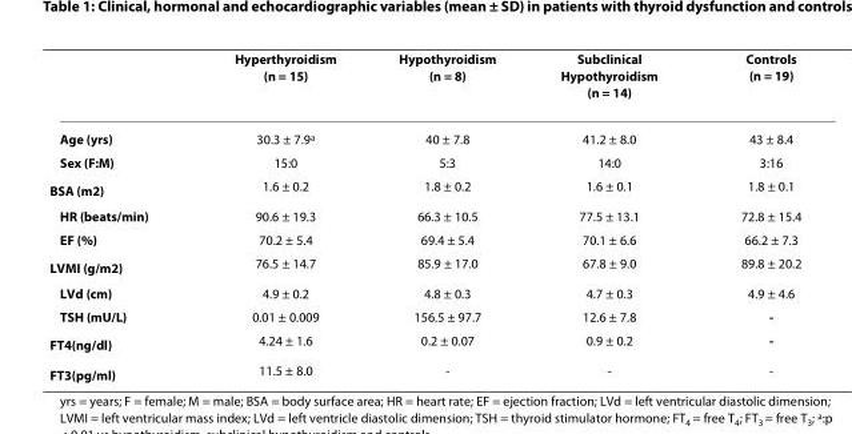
<table><thead><tr><td></td><td>Hyperthyroidism (n = 15)</td><td>Hypothyroidism (n = 8)</td><td>Subclinical Hypothyroidism (n = 14)</td><td>Controls (n = 19)</td></tr></thead><tbody><tr><td>Age (yrs)</td><td>30.3 ± 7.9<sup>a</sup></td><td>40 ± 7.8</td><td>41.2 ± 8.0</td><td>43 ± 8.4</td></tr><tr><td>Sex (F:M)</td><td>15:0</td><td>5:3</td><td>14:0</td><td>3:16</td></tr><tr><td>BSA (m<sup>2</sup>)</td><td>1.6 ± 0.2</td><td>1.8 ± 0.2</td><td>1.6 ± 0.1</td><td>1.8 ± 0.1</td></tr><tr><td>HR (beats/min)</td><td>90.6 ± 19.3</td><td>66.3 ± 10.5</td><td>77.5 ± 13.1</td><td>72.8 ± 15.4</td></tr><tr><td>EF (%)</td><td>70.2 ± 5.4</td><td>69.4 ± 5.4</td><td>70.1 ± 6.6</td><td>66.2 ± 7.3</td></tr><tr><td>LVMI (g/m<sup>2</sup>)</td><td>76.5 ± 14.7</td><td>85.9 ± 17.0</td><td>67.8 ± 9.0</td><td>89.8 ± 20.2</td></tr><tr><td>LVd (cm)</td><td>4.9 ± 0.2</td><td>4.8 ± 0.3</td><td>4.7 ± 0.3</td><td>4.9 ± 4.6</td></tr><tr><td>TSH (mU/L)</td><td>0.01 ± 0.009</td><td>156.5 ± 97.7</td><td>12.6 ± 7.8</td><td>-</td></tr><tr><td>FT<sub>4</sub>(ng/dl)</td><td>4.24 ± 1.6</td><td>0.2 ± 0.07</td><td>0.9 ± 0.2</td><td>-</td></tr><tr><td>FT<sub>3</sub>(pg/ml)</td><td>11.5 ± 8.0</td><td>-</td><td>-</td><td>-</td></tr></tbody></table>